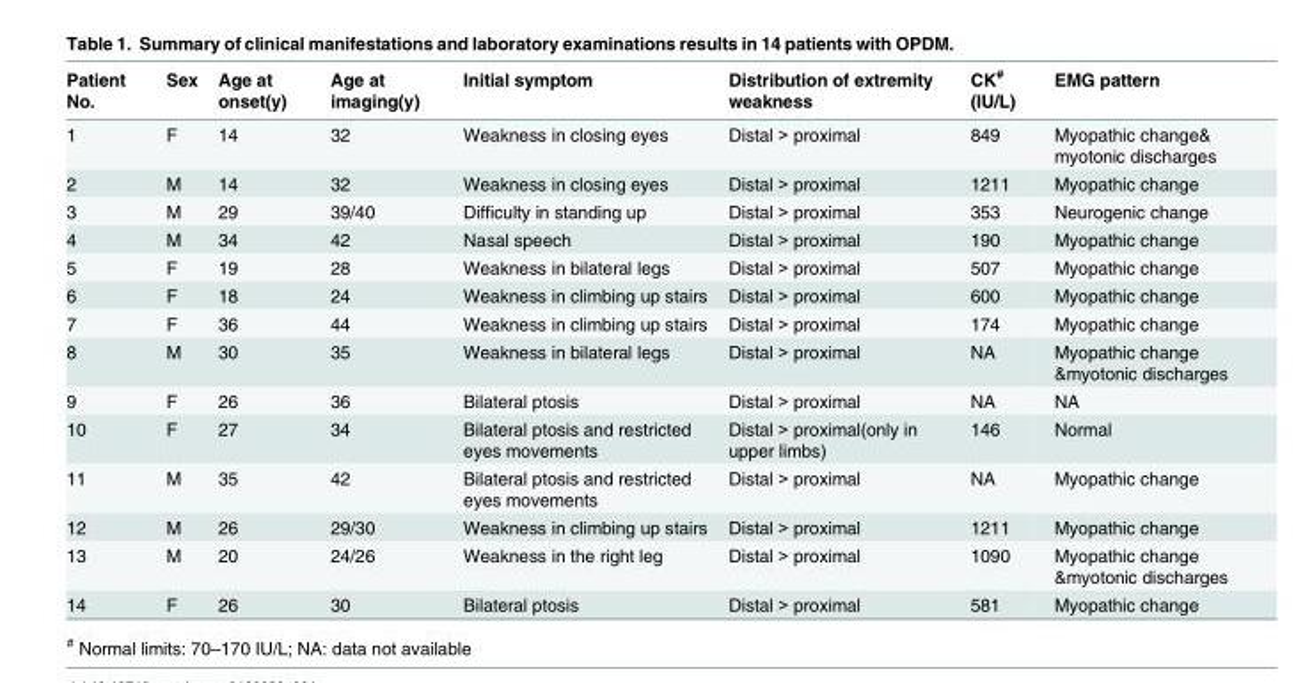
<table><thead><tr><td>Patient No.</td><td>Sex</td><td>Age at onset(y)</td><td>Age at imaging(y)</td><td>Initial symptom</td><td>Distribution of extremity weakness</td><td>CK<sup>#</sup> (IU/L)</td><td>EMG pattern</td></tr></thead><tbody><tr><td>1</td><td>F</td><td>14</td><td>32</td><td>Weakness in closing eyes</td><td>Distal &gt; proximal</td><td>849</td><td>Myopathic change&amp; myotonic discharges</td></tr><tr><td>2</td><td>M</td><td>14</td><td>32</td><td>Weakness in closing eyes</td><td>Distal &gt; proximal</td><td>1211</td><td>Myopathic change</td></tr><tr><td>3</td><td>M</td><td>29</td><td>39/40</td><td>Difficulty in standing up</td><td>Distal &gt; proximal</td><td>353</td><td>Neurogenic change</td></tr><tr><td>4</td><td>M</td><td>34</td><td>42</td><td>Nasal speech</td><td>Distal &gt; proximal</td><td>190</td><td>Myopathic change</td></tr><tr><td>5</td><td>F</td><td>19</td><td>28</td><td>Weakness in bilateral legs</td><td>Distal &gt; proximal</td><td>507</td><td>Myopathic change</td></tr><tr><td>6</td><td>F</td><td>18</td><td>24</td><td>Weakness in climbing up stairs</td><td>Distal &gt; proximal</td><td>600</td><td>Myopathic change</td></tr><tr><td>7</td><td>F</td><td>36</td><td>44</td><td>Weakness in climbing up stairs</td><td>Distal &gt; proximal</td><td>174</td><td>Myopathic change</td></tr><tr><td>8</td><td>M</td><td>30</td><td>35</td><td>Weakness in bilateral legs</td><td>Distal &gt; proximal</td><td>NA</td><td>Myopathic change &amp;myotonic discharges</td></tr><tr><td>9</td><td>F</td><td>26</td><td>36</td><td>Bilateral ptosis</td><td>Distal &gt; proximal</td><td>NA</td><td>NA</td></tr><tr><td>10</td><td>F</td><td>27</td><td>34</td><td>Bilateral ptosis and restricted eyes movements</td><td>Distal &gt; proximal(only in upper limbs)</td><td>146</td><td>Normal</td></tr><tr><td>11</td><td>M</td><td>35</td><td>42</td><td>Bilateral ptosis and restricted eyes movements</td><td>Distal &gt; proximal</td><td>NA</td><td>Myopathic change</td></tr><tr><td>12</td><td>M</td><td>26</td><td>29/30</td><td>Weakness in climbing up stairs</td><td>Distal &gt; proximal</td><td>1211</td><td>Myopathic change</td></tr><tr><td>13</td><td>M</td><td>20</td><td>24/26</td><td>Weakness in the right leg</td><td>Distal &gt; proximal</td><td>1090</td><td>Myopathic change &amp;myotonic discharges</td></tr><tr><td>14</td><td>F</td><td>26</td><td>30</td><td>Bilateral ptosis</td><td>Distal &gt; proximal</td><td>581</td><td>Myopathic change</td></tr></tbody></table>